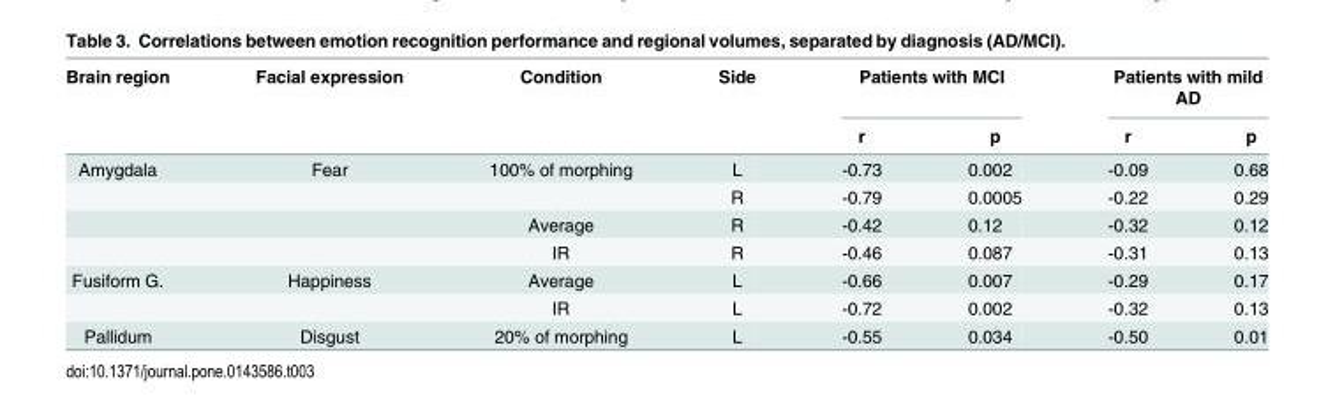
<table><thead><tr><td rowspan="2">Brain region</td><td rowspan="2">Facial expression</td><td rowspan="2">Condition</td><td rowspan="2">Side</td><td colspan="2">Patients with MCI</td><td colspan="2">Patients with mild AD</td></tr><tr><td>r</td><td>p</td><td>r</td><td>p</td></tr></thead><tbody><tr><td rowspan="4">Amygdala</td><td>Fear</td><td>100% of morphing</td><td>L</td><td>-0.73</td><td>0.002</td><td>-0.09</td><td>0.68</td></tr><tr><td></td><td></td><td>R</td><td>-0.79</td><td>0.0005</td><td>-0.22</td><td>0.29</td></tr><tr><td></td><td>Average</td><td>R</td><td>-0.42</td><td>0.12</td><td>-0.32</td><td>0.12</td></tr><tr><td></td><td>IR</td><td>R</td><td>-0.46</td><td>0.087</td><td>-0.31</td><td>0.13</td></tr><tr><td rowspan="2">Fusiform G.</td><td>Happiness</td><td>Average</td><td>L</td><td>-0.66</td><td>0.007</td><td>-0.29</td><td>0.17</td></tr><tr><td></td><td>IR</td><td>L</td><td>-0.72</td><td>0.002</td><td>-0.32</td><td>0.13</td></tr><tr><td>Pallidum</td><td>Disgust</td><td>20% of morphing</td><td>L</td><td>-0.55</td><td>0.034</td><td>-0.50</td><td>0.01</td></tr></tbody></table>